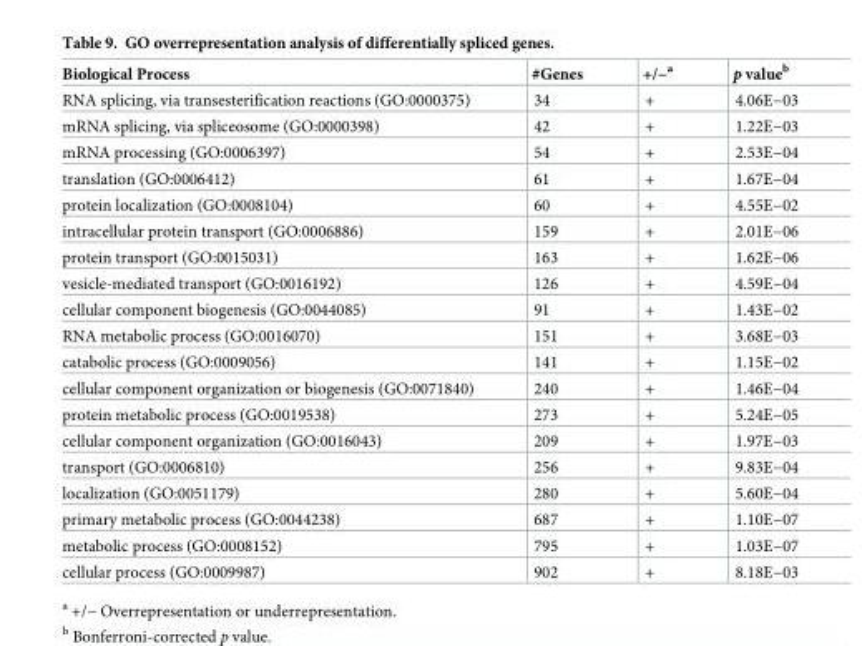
<table><thead><tr><td>Biological Process</td><td>#Genes</td><td>+/−<sup>a</sup></td><td>p value<sup>b</sup></td></tr></thead><tbody><tr><td>RNA splicing, via transesterification reactions (GO:0000375)</td><td>34</td><td>+</td><td>4.06E−03</td></tr><tr><td>mRNA splicing, via spliceosome (GO:0000398)</td><td>42</td><td>+</td><td>1.22E−03</td></tr><tr><td>mRNA processing (GO:0006397)</td><td>54</td><td>+</td><td>2.53E−04</td></tr><tr><td>translation (GO:0006412)</td><td>61</td><td>+</td><td>1.67E−04</td></tr><tr><td>protein localization (GO:0008104)</td><td>60</td><td>+</td><td>4.55E−02</td></tr><tr><td>intracellular protein transport (GO:0006886)</td><td>159</td><td>+</td><td>2.01E−06</td></tr><tr><td>protein transport (GO:0015031)</td><td>163</td><td>+</td><td>1.62E−06</td></tr><tr><td>vesicle-mediated transport (GO:0016192)</td><td>126</td><td>+</td><td>4.59E−04</td></tr><tr><td>cellular component biogenesis (GO:0044085)</td><td>91</td><td>+</td><td>1.43E−02</td></tr><tr><td>RNA metabolic process (GO:0016070)</td><td>151</td><td>+</td><td>3.68E−03</td></tr><tr><td>catabolic process (GO:0009056)</td><td>141</td><td>+</td><td>1.15E−02</td></tr><tr><td>cellular component organization or biogenesis (GO:0071840)</td><td>240</td><td>+</td><td>1.46E−04</td></tr><tr><td>protein metabolic process (GO:0019538)</td><td>273</td><td>+</td><td>5.24E−05</td></tr><tr><td>cellular component organization (GO:0016043)</td><td>209</td><td>+</td><td>1.97E−03</td></tr><tr><td>transport (GO:0006810)</td><td>256</td><td>+</td><td>9.83E−04</td></tr><tr><td>localization (GO:0051179)</td><td>280</td><td>+</td><td>5.60E−04</td></tr><tr><td>primary metabolic process (GO:0044238)</td><td>687</td><td>+</td><td>1.10E−07</td></tr><tr><td>metabolic process (GO:0008152)</td><td>795</td><td>+</td><td>1.03E−07</td></tr><tr><td>cellular process (GO:0009987)</td><td>902</td><td>+</td><td>8.18E−03</td></tr></tbody></table>